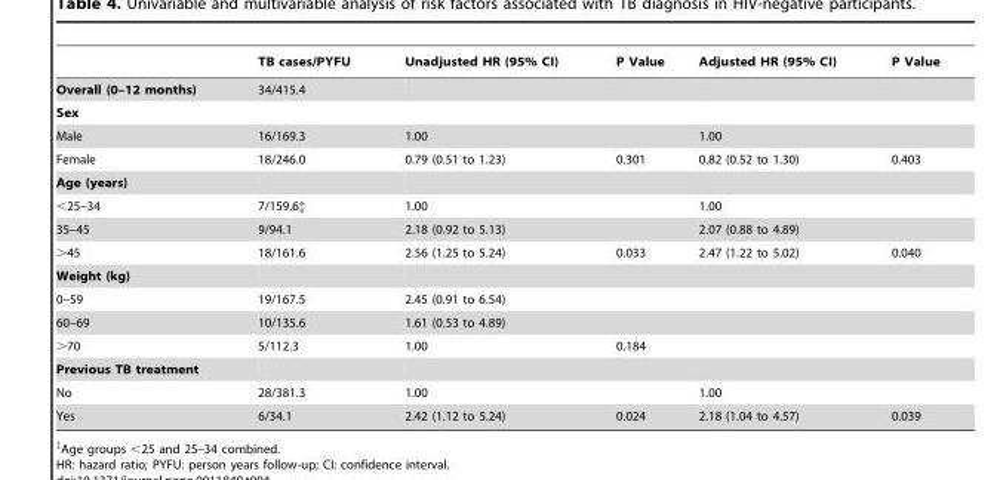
<table><thead><tr><td></td><td>TB cases/PYFU</td><td>Unadjusted HR (95% CI)</td><td>P Value</td><td>Adjusted HR (95% CI)</td><td>P Value</td></tr></thead><tbody><tr><td>Overall (0–12 months)</td><td>34/415.4</td><td></td><td></td><td></td><td></td></tr><tr><td colspan="6">Sex</td></tr><tr><td>Male</td><td>16/169.3</td><td>1.00</td><td></td><td>1.00</td><td></td></tr><tr><td>Female</td><td>18/246.0</td><td>0.79 (0.51 to 1.23)</td><td>0.301</td><td>0.82 (0.52 to 1.30)</td><td>0.403</td></tr><tr><td colspan="6">Age (years)</td></tr><tr><td>&lt;25–34</td><td>7/159.6‡</td><td>1.00</td><td></td><td>1.00</td><td></td></tr><tr><td>35–45</td><td>9/94.1</td><td>2.18 (0.92 to 5.13)</td><td></td><td>2.07 (0.88 to 4.89)</td><td></td></tr><tr><td>&gt;45</td><td>18/161.6</td><td>2.56 (1.25 to 5.24)</td><td>0.033</td><td>2.47 (1.22 to 5.02)</td><td>0.040</td></tr><tr><td colspan="6">Weight (kg)</td></tr><tr><td>0–59</td><td>19/167.5</td><td>2.45 (0.91 to 6.54)</td><td></td><td></td><td></td></tr><tr><td>60–69</td><td>10/135.6</td><td>1.61 (0.53 to 4.89)</td><td></td><td></td><td></td></tr><tr><td>&gt;70</td><td>5/112.3</td><td>1.00</td><td>0.184</td><td></td><td></td></tr><tr><td colspan="6">Previous TB treatment</td></tr><tr><td>No</td><td>28/381.3</td><td>1.00</td><td></td><td>1.00</td><td></td></tr><tr><td>Yes</td><td>6/34.1</td><td>2.42 (1.12 to 5.24)</td><td>0.024</td><td>2.18 (1.04 to 4.57)</td><td>0.039</td></tr></tbody></table>